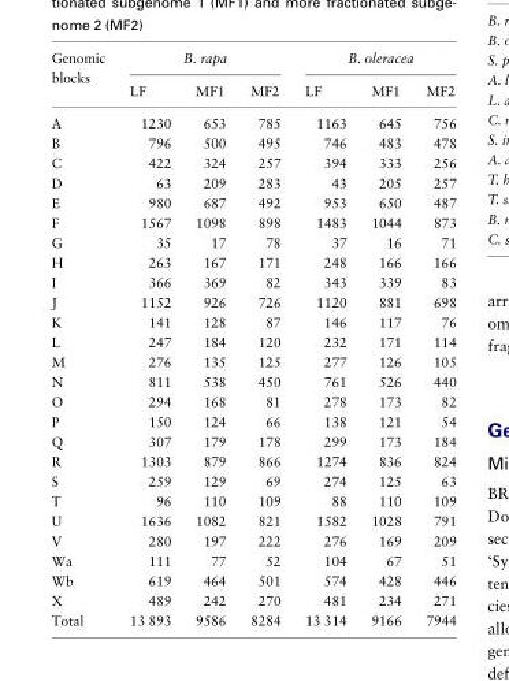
<table><thead><tr><td rowspan="2">Genomic blocks</td><td colspan="3">B. rapa</td><td colspan="3">B. oleracea</td></tr><tr><td>LF</td><td>MF1</td><td>MF2</td><td>LF</td><td>MF1</td><td>MF2</td></tr></thead><tbody><tr><td>A</td><td>1230</td><td>653</td><td>785</td><td>1163</td><td>645</td><td>756</td></tr><tr><td>B</td><td>796</td><td>500</td><td>495</td><td>746</td><td>483</td><td>478</td></tr><tr><td>C</td><td>422</td><td>324</td><td>257</td><td>394</td><td>333</td><td>256</td></tr><tr><td>D</td><td>63</td><td>209</td><td>283</td><td>43</td><td>205</td><td>257</td></tr><tr><td>E</td><td>980</td><td>687</td><td>492</td><td>953</td><td>650</td><td>487</td></tr><tr><td>F</td><td>1567</td><td>1098</td><td>898</td><td>1483</td><td>1044</td><td>873</td></tr><tr><td>G</td><td>35</td><td>17</td><td>78</td><td>37</td><td>16</td><td>71</td></tr><tr><td>H</td><td>263</td><td>167</td><td>171</td><td>248</td><td>166</td><td>166</td></tr><tr><td>I</td><td>366</td><td>369</td><td>82</td><td>343</td><td>339</td><td>83</td></tr><tr><td>J</td><td>1152</td><td>926</td><td>726</td><td>1120</td><td>881</td><td>698</td></tr><tr><td>K</td><td>141</td><td>128</td><td>87</td><td>146</td><td>117</td><td>76</td></tr><tr><td>L</td><td>247</td><td>184</td><td>120</td><td>232</td><td>171</td><td>114</td></tr><tr><td>M</td><td>276</td><td>135</td><td>125</td><td>277</td><td>126</td><td>105</td></tr><tr><td>N</td><td>811</td><td>538</td><td>450</td><td>761</td><td>526</td><td>440</td></tr><tr><td>O</td><td>294</td><td>168</td><td>81</td><td>278</td><td>173</td><td>82</td></tr><tr><td>P</td><td>150</td><td>124</td><td>66</td><td>138</td><td>121</td><td>54</td></tr><tr><td>Q</td><td>307</td><td>179</td><td>178</td><td>299</td><td>173</td><td>184</td></tr><tr><td>R</td><td>1303</td><td>879</td><td>866</td><td>1274</td><td>836</td><td>824</td></tr><tr><td>S</td><td>259</td><td>129</td><td>69</td><td>274</td><td>125</td><td>63</td></tr><tr><td>T</td><td>96</td><td>110</td><td>109</td><td>88</td><td>110</td><td>109</td></tr><tr><td>U</td><td>1636</td><td>1082</td><td>821</td><td>1582</td><td>1028</td><td>791</td></tr><tr><td>V</td><td>280</td><td>197</td><td>222</td><td>276</td><td>169</td><td>209</td></tr><tr><td>Wa</td><td>111</td><td>77</td><td>52</td><td>104</td><td>67</td><td>51</td></tr><tr><td>Wb</td><td>619</td><td>464</td><td>501</td><td>574</td><td>428</td><td>446</td></tr><tr><td>X</td><td>489</td><td>242</td><td>270</td><td>481</td><td>234</td><td>271</td></tr><tr><td>Total</td><td>13 893</td><td>9586</td><td>8284</td><td>13 314</td><td>9166</td><td>7944</td></tr></tbody></table>